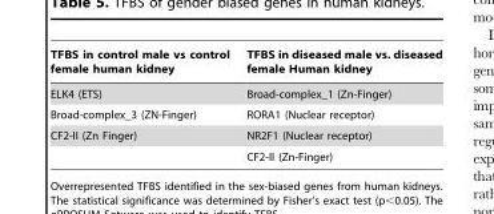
<table><thead><tr><td>TFBS in control male vs control female human kidney</td><td>TFBS in diseased male vs. diseased female Human kidney</td></tr></thead><tbody><tr><td>ELK4 (ETS)</td><td>Broad-complex_1 (Zn-Finger)</td></tr><tr><td>Broad-complex_3 (ZN-Finger)</td><td>RORA1 (Nuclear receptor)</td></tr><tr><td rowspan="2">CF2-II (Zn Finger)</td><td>NR2F1 (Nuclear receptor)</td></tr><tr><td>CF2-II (Zn-Finger)</td></tr></tbody></table>